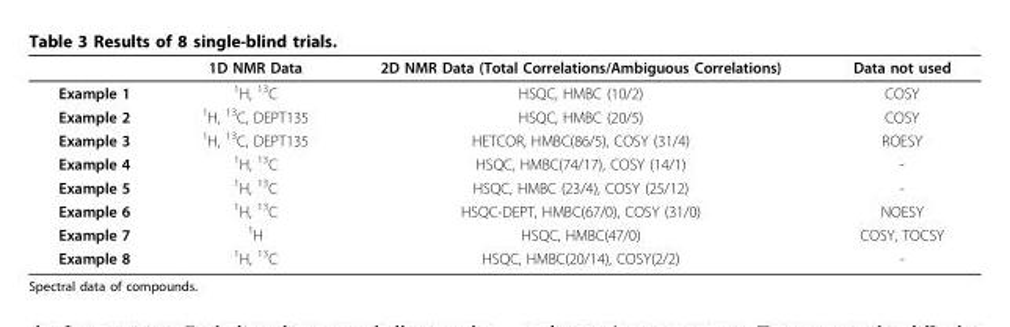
<table><thead><tr><td></td><td>1D NMR Data</td><td>2D NMR Data (Total Correlations/Ambiguous Correlations)</td><td>Data not used</td></tr></thead><tbody><tr><td>Example 1</td><td><sup>1</sup>H, <sup>13</sup>C</td><td>HSQC, HMBC (10/2)</td><td>COSY</td></tr><tr><td>Example 2</td><td><sup>1</sup>H, <sup>13</sup>C, DEPT135</td><td>HSQC, HMBC (20/5)</td><td>COSY</td></tr><tr><td>Example 3</td><td><sup>1</sup>H, <sup>13</sup>C, DEPT135</td><td>HETCOR, HMBC(86/5), COSY (31/4)</td><td>ROESY</td></tr><tr><td>Example 4</td><td><sup>1</sup>H, <sup>13</sup>C</td><td>HSQC, HMBC(74/17), COSY (14/1)</td><td>-</td></tr><tr><td>Example 5</td><td><sup>1</sup>H, <sup>13</sup>C</td><td>HSQC, HMBC (23/4), COSY (25/12)</td><td>-</td></tr><tr><td>Example 6</td><td><sup>1</sup>H, <sup>13</sup>C</td><td>HSQC-DEPT, HMBC(67/0), COSY (31/0)</td><td>NOESY</td></tr><tr><td>Example 7</td><td><sup>1</sup>H</td><td>HSQC, HMBC(47/0)</td><td>COSY, TOCSY</td></tr><tr><td>Example 8</td><td><sup>1</sup>H, <sup>13</sup>C</td><td>HSQC, HMBC(20/14), COSY(2/2)</td><td>-</td></tr></tbody></table>